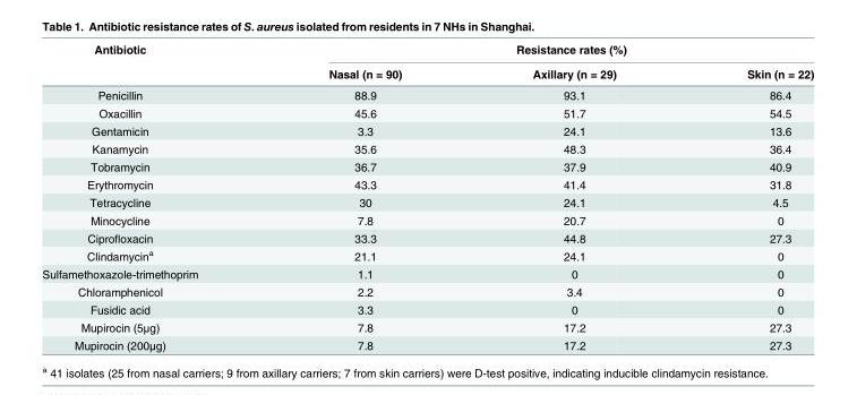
<table><thead><tr><td rowspan="2">Antibiotic</td><td colspan="3">Resistance rates (%)</td></tr><tr><td>Nasal (n = 90)</td><td>Axillary (n = 29)</td><td>Skin (n = 22)</td></tr></thead><tbody><tr><td>Penicillin</td><td>88.9</td><td>93.1</td><td>86.4</td></tr><tr><td>Oxacillin</td><td>45.6</td><td>51.7</td><td>54.5</td></tr><tr><td>Gentamicin</td><td>3.3</td><td>24.1</td><td>13.6</td></tr><tr><td>Kanamycin</td><td>35.6</td><td>48.3</td><td>36.4</td></tr><tr><td>Tobramycin</td><td>36.7</td><td>37.9</td><td>40.9</td></tr><tr><td>Erythromycin</td><td>43.3</td><td>41.4</td><td>31.8</td></tr><tr><td>Tetracycline</td><td>30</td><td>24.1</td><td>4.5</td></tr><tr><td>Minocycline</td><td>7.8</td><td>20.7</td><td>0</td></tr><tr><td>Ciprofloxacin</td><td>33.3</td><td>44.8</td><td>27.3</td></tr><tr><td>Clindamycin<sup>a</sup></td><td>21.1</td><td>24.1</td><td>0</td></tr><tr><td>Sulfamethoxazole-trimethoprim</td><td>1.1</td><td>0</td><td>0</td></tr><tr><td>Chloramphenicol</td><td>2.2</td><td>3.4</td><td>0</td></tr><tr><td>Fusidic acid</td><td>3.3</td><td>0</td><td>0</td></tr><tr><td>Mupirocin (5μg)</td><td>7.8</td><td>17.2</td><td>27.3</td></tr><tr><td>Mupirocin (200μg)</td><td>7.8</td><td>17.2</td><td>27.3</td></tr></tbody></table>